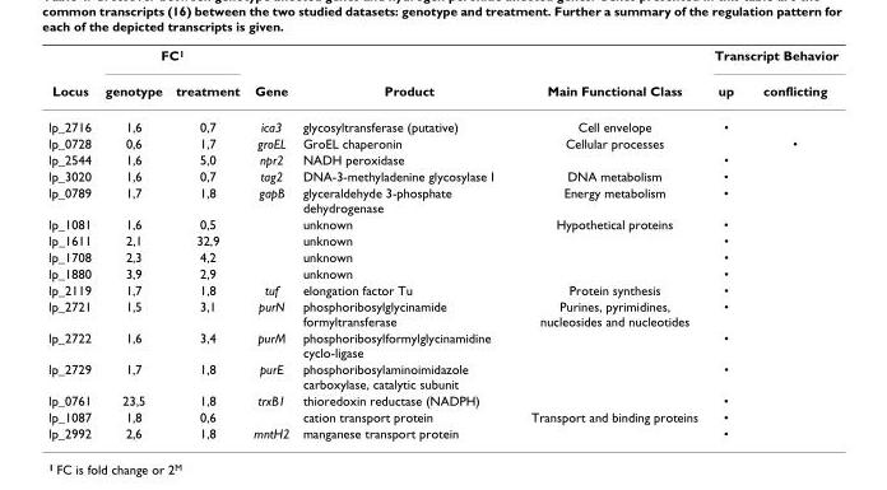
<table><thead><tr><td rowspan="2">Locus</td><td colspan="2">FC<sup>1</sup></td><td rowspan="2">Gene</td><td rowspan="2">Product</td><td rowspan="2">Main Functional Class</td><td colspan="2">Transcript Behavior</td></tr><tr><td>genotype</td><td>treatment</td><td>up</td><td>conflicting</td></tr></thead><tbody><tr><td>lp_2716</td><td>1,6</td><td>0,7</td><td>ica3</td><td>glycosyltransferase (putative)</td><td>Cell envelope</td><td>•</td><td></td></tr><tr><td>lp_0728</td><td>0,6</td><td>1,7</td><td>groEL</td><td>GroEL chaperonin</td><td>Cellular processes</td><td></td><td>•</td></tr><tr><td>lp_2544</td><td>1,6</td><td>5,0</td><td>npr2</td><td>NADH peroxidase</td><td></td><td>•</td><td></td></tr><tr><td>lp_3020</td><td>1,6</td><td>0,7</td><td>tag2</td><td>DNA-3-methyladenine glycosylase I</td><td>DNA metabolism</td><td>•</td><td></td></tr><tr><td>lp_0789</td><td>1,7</td><td>1,8</td><td>gapB</td><td>glyceraldehyde 3-phosphate dehydrogenase</td><td>Energy metabolism</td><td>•</td><td></td></tr><tr><td>lp_1081</td><td>1,6</td><td>0,5</td><td></td><td>unknown</td><td>Hypothetical proteins</td><td>•</td><td></td></tr><tr><td>lp_1611</td><td>2,1</td><td>32,9</td><td></td><td>unknown</td><td></td><td>•</td><td></td></tr><tr><td>lp_1708</td><td>2,3</td><td>4,2</td><td></td><td>unknown</td><td></td><td>•</td><td></td></tr><tr><td>lp_1880</td><td>3,9</td><td>2,9</td><td></td><td>unknown</td><td></td><td>•</td><td></td></tr><tr><td>lp_2119</td><td>1,7</td><td>1,8</td><td>tuf</td><td>elongation factor Tu</td><td>Protein synthesis</td><td>•</td><td></td></tr><tr><td>lp_2721</td><td>1,5</td><td>3,1</td><td>purN</td><td>phosphoribosylglycinamide formyltransferase</td><td>Purines, pyrimidines, nucleosides and nucleotides</td><td>•</td><td></td></tr><tr><td>lp_2722</td><td>1,6</td><td>3,4</td><td>purM</td><td>phosphoribosylformylglycinamidine cyclo-ligase</td><td></td><td>•</td><td></td></tr><tr><td>lp_2729</td><td>1,7</td><td>1,8</td><td>purE</td><td>phosphoribosylaminoimidazole carboxylase, catalytic subunit</td><td></td><td>•</td><td></td></tr><tr><td>lp_0761</td><td>23,5</td><td>1,8</td><td>trxB1</td><td>thioredoxin reductase (NADPH)</td><td></td><td>•</td><td></td></tr><tr><td>lp_1087</td><td>1,8</td><td>0,6</td><td></td><td>cation transport protein</td><td>Transport and binding proteins</td><td>•</td><td></td></tr><tr><td>lp_2992</td><td>2,6</td><td>1,8</td><td>mntH2</td><td>manganese transport protein</td><td></td><td>•</td><td></td></tr></tbody></table>